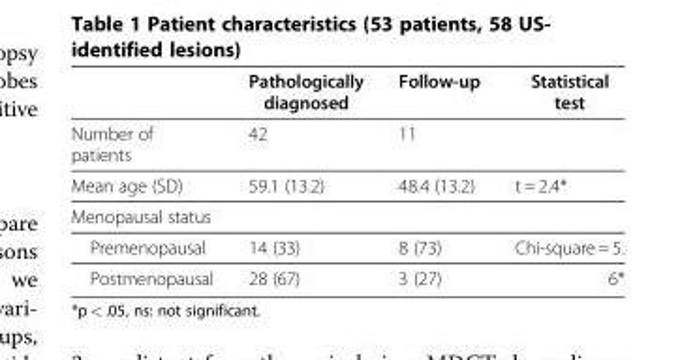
<table><thead><tr><td></td><td>Pathologically diagnosed</td><td>Follow-up</td><td>Statistical test</td></tr></thead><tbody><tr><td>Number of patients</td><td>42</td><td>11</td><td></td></tr><tr><td>Mean age (SD)</td><td>59.1 (13.2)</td><td>48.4 (13.2)</td><td>t = 2.4*</td></tr><tr><td colspan="4">Menopausal status</td></tr><tr><td>Premenopausal</td><td>14 (33)</td><td>8 (73)</td><td>Chi-square = 5.</td></tr><tr><td>Postmenopausal</td><td>28 (67)</td><td>3 (27)</td><td>6*</td></tr></tbody></table>